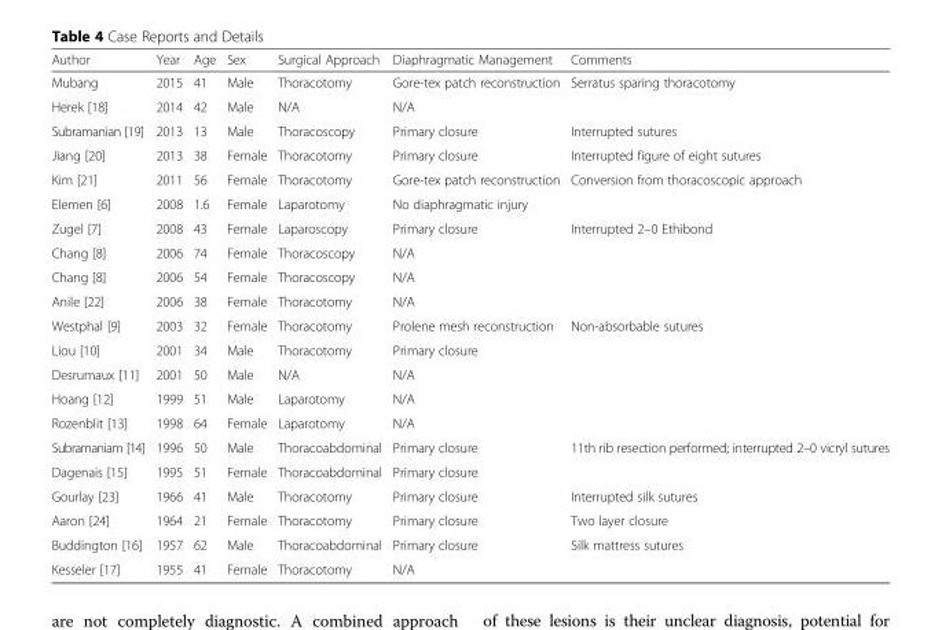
<table><thead><tr><td>Author</td><td>Year</td><td>Age</td><td>Sex</td><td>Surgical Approach</td><td>Diaphragmatic Management</td><td>Comments</td></tr></thead><tbody><tr><td>Mubang</td><td>2015</td><td>41</td><td>Male</td><td>Thoracotomy</td><td>Gore-tex patch reconstruction</td><td>Serratus sparing thoracotomy</td></tr><tr><td>Herek [18]</td><td>2014</td><td>42</td><td>Male</td><td>N/A</td><td>N/A</td><td></td></tr><tr><td>Subramanian [19]</td><td>2013</td><td>13</td><td>Male</td><td>Thoracoscopy</td><td>Primary closure</td><td>Interrupted sutures</td></tr><tr><td>Jiang [20]</td><td>2013</td><td>38</td><td>Female</td><td>Thoracotomy</td><td>Primary closure</td><td>Interrupted figure of eight sutures</td></tr><tr><td>Kim [21]</td><td>2011</td><td>56</td><td>Female</td><td>Thoracotomy</td><td>Gore-tex patch reconstruction</td><td>Conversion from thoracoscopic approach</td></tr><tr><td>Elemen [6]</td><td>2008</td><td>1.6</td><td>Female</td><td>Laparotomy</td><td>No diaphragmatic injury</td><td></td></tr><tr><td>Zugel [7]</td><td>2008</td><td>43</td><td>Female</td><td>Laparoscopy</td><td>Primary closure</td><td>Interrupted 2–0 Ethibond</td></tr><tr><td>Chang [8]</td><td>2006</td><td>74</td><td>Female</td><td>Thoracoscopy</td><td>N/A</td><td></td></tr><tr><td>Chang [8]</td><td>2006</td><td>54</td><td>Female</td><td>Thoracoscopy</td><td>N/A</td><td></td></tr><tr><td>Anile [22]</td><td>2006</td><td>38</td><td>Female</td><td>Thoracotomy</td><td>N/A</td><td></td></tr><tr><td>Westphal [9]</td><td>2003</td><td>32</td><td>Female</td><td>Thoracotomy</td><td>Prolene mesh reconstruction</td><td>Non-absorbable sutures</td></tr><tr><td>Liou [10]</td><td>2001</td><td>34</td><td>Male</td><td>Thoracotomy</td><td>Primary closure</td><td></td></tr><tr><td>Desrumaux [11]</td><td>2001</td><td>50</td><td>Male</td><td>N/A</td><td>N/A</td><td></td></tr><tr><td>Hoang [12]</td><td>1999</td><td>51</td><td>Male</td><td>Laparotomy</td><td>N/A</td><td></td></tr><tr><td>Rozenblit [13]</td><td>1998</td><td>64</td><td>Female</td><td>Laparotomy</td><td>N/A</td><td></td></tr><tr><td>Subramaniam [14]</td><td>1996</td><td>50</td><td>Male</td><td>Thoracoabdominal</td><td>Primary closure</td><td>11th rib resection performed; interrupted 2–0 vicryl sutures</td></tr><tr><td>Dagenais [15]</td><td>1995</td><td>51</td><td>Female</td><td>Thoracoabdominal</td><td>Primary closure</td><td></td></tr><tr><td>Gourlay [23]</td><td>1966</td><td>41</td><td>Male</td><td>Thoracotomy</td><td>Primary closure</td><td>Interrupted silk sutures</td></tr><tr><td>Aaron [24]</td><td>1964</td><td>21</td><td>Female</td><td>Thoracotomy</td><td>Primary closure</td><td>Two layer closure</td></tr><tr><td>Buddington [16]</td><td>1957</td><td>62</td><td>Male</td><td>Thoracoabdominal</td><td>Primary closure</td><td>Silk mattress sutures</td></tr><tr><td>Kesseler [17]</td><td>1955</td><td>41</td><td>Female</td><td>Thoracotomy</td><td>N/A</td><td></td></tr></tbody></table>